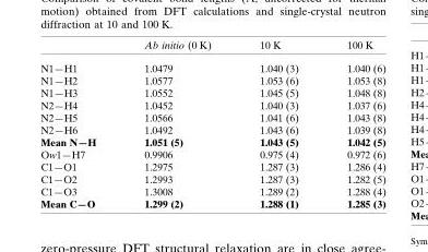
<table><thead><tr><td></td><td>Ab initio (0 K)</td><td>10 K</td><td>100 K</td></tr></thead><tbody><tr><td>N1—H1</td><td>1.0479</td><td>1.040 (3)</td><td>1.040 (6)</td></tr><tr><td>N1—H2</td><td>1.0577</td><td>1.053 (6)</td><td>1.053 (8)</td></tr><tr><td>N1—H3</td><td>1.0552</td><td>1.045 (5)</td><td>1.048 (8)</td></tr><tr><td>N2—H4</td><td>1.0452</td><td>1.040 (3)</td><td>1.037 (6)</td></tr><tr><td>N2—H5</td><td>1.0566</td><td>1.041 (6)</td><td>1.043 (8)</td></tr><tr><td>N2—H6</td><td>1.0492</td><td>1.043 (6)</td><td>1.039 (8)</td></tr><tr><td>Mean N—H</td><td>1.051 (5)</td><td>1.043 (5)</td><td>1.042 (5)</td></tr><tr><td>Ow1—H7</td><td>0.9906</td><td>0.975 (4)</td><td>0.972 (6)</td></tr><tr><td>C1—O1</td><td>1.2975</td><td>1.287 (3)</td><td>1.286 (4)</td></tr><tr><td>C1—O2</td><td>1.2993</td><td>1.287 (3)</td><td>1.282 (5)</td></tr><tr><td>C1—O3</td><td>1.3008</td><td>1.289 (2)</td><td>1.288 (4)</td></tr><tr><td>Mean C—O</td><td>1.299 (2)</td><td>1.288 (1)</td><td>1.285 (3)</td></tr></tbody></table>